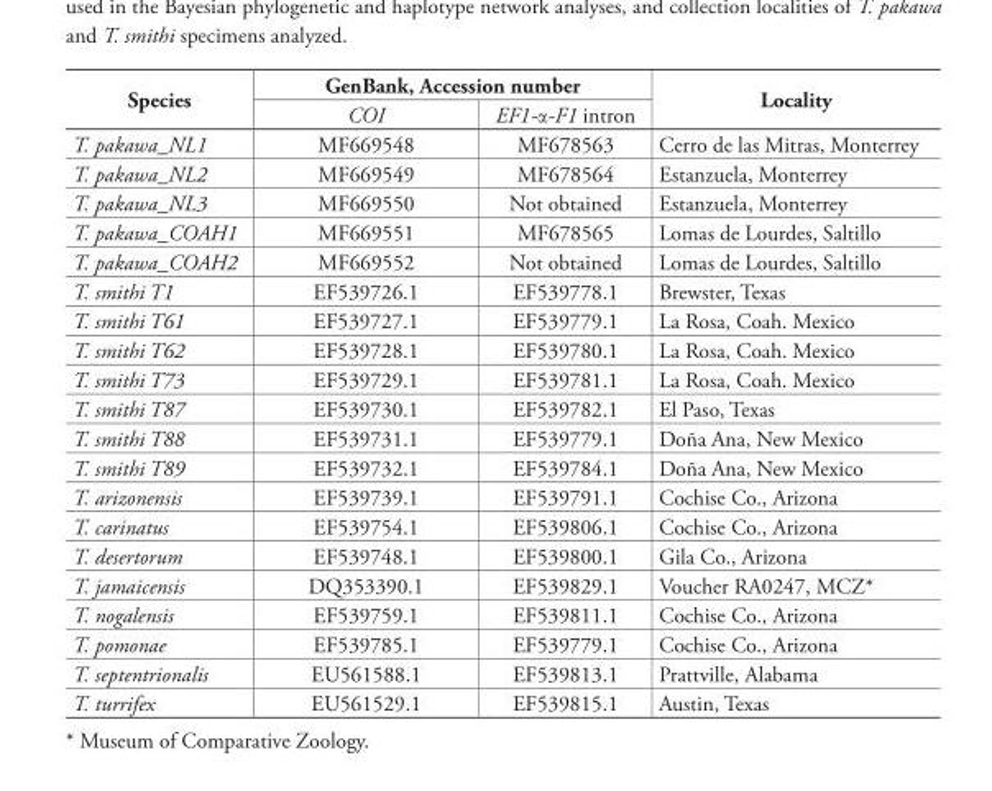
<table><thead><tr><td rowspan="2">Species</td><td colspan="2">GenBank, Accession number</td><td rowspan="2">Locality</td></tr><tr><td>COI</td><td>EF1-α-F1 intron</td></tr></thead><tbody><tr><td>T. pakawa_NL1</td><td>MF669548</td><td>MF678563</td><td>Cerro de las Mitras, Monterrey</td></tr><tr><td>T. pakawa_NL2</td><td>MF669549</td><td>MF678564</td><td>Estanzuela, Monterrey</td></tr><tr><td>T. pakawa_NL3</td><td>MF669550</td><td>Not obtained</td><td>Estanzuela, Monterrey</td></tr><tr><td>T. pakawa_COAH1</td><td>MF669551</td><td>MF678565</td><td>Lomas de Lourdes, Saltillo</td></tr><tr><td>T. pakawa_COAH2</td><td>MF669552</td><td>Not obtained</td><td>Lomas de Lourdes, Saltillo</td></tr><tr><td>T. smithi T1</td><td>EF539726.1</td><td>EF539778.1</td><td>Brewster, Texas</td></tr><tr><td>T. smithi T61</td><td>EF539727.1</td><td>EF539779.1</td><td>La Rosa, Coah. Mexico</td></tr><tr><td>T. smithi T62</td><td>EF539728.1</td><td>EF539780.1</td><td>La Rosa, Coah. Mexico</td></tr><tr><td>T. smithi T73</td><td>EF539729.1</td><td>EF539781.1</td><td>La Rosa, Coah. Mexico</td></tr><tr><td>T. smithi T87</td><td>EF539730.1</td><td>EF539782.1</td><td>El Paso, Texas</td></tr><tr><td>T. smithi T88</td><td>EF539731.1</td><td>EF539779.1</td><td>Doña Ana, New Mexico</td></tr><tr><td>T. smithi T89</td><td>EF539732.1</td><td>EF539784.1</td><td>Doña Ana, New Mexico</td></tr><tr><td>T. arizonensis</td><td>EF539739.1</td><td>EF539791.1</td><td>Cochise Co., Arizona</td></tr><tr><td>T. carinatus</td><td>EF539754.1</td><td>EF539806.1</td><td>Cochise Co., Arizona</td></tr><tr><td>T. desertorum</td><td>EF539748.1</td><td>EF539800.1</td><td>Gila Co., Arizona</td></tr><tr><td>T. jamaicensis</td><td>DQ353390.1</td><td>EF539829.1</td><td>Voucher RA0247, MCZ*</td></tr><tr><td>T. nogalensis</td><td>EF539759.1</td><td>EF539811.1</td><td>Cochise Co., Arizona</td></tr><tr><td>T. pomonae</td><td>EF539785.1</td><td>EF539779.1</td><td>Cochise Co., Arizona</td></tr><tr><td>T. septentrionalis</td><td>EU561588.1</td><td>EF539813.1</td><td>Prattville, Alabama</td></tr><tr><td>T. turrifex</td><td>EU561529.1</td><td>EF539815.1</td><td>Austin, Texas</td></tr></tbody></table>